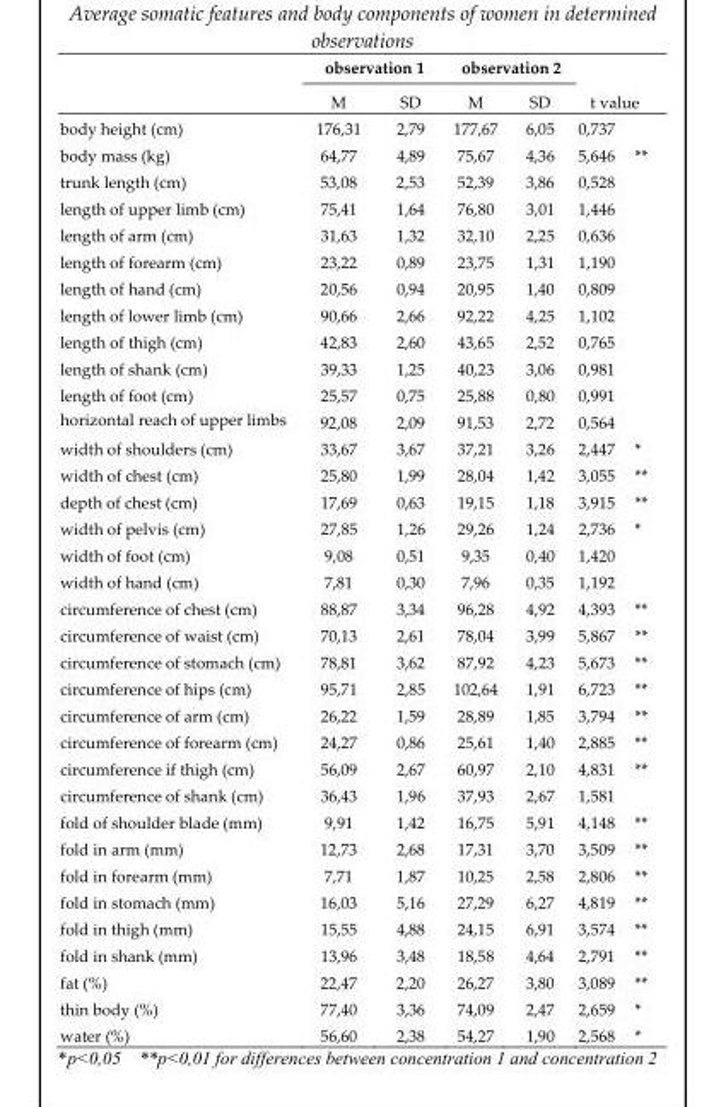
<table><thead><tr><td rowspan="2"></td><td colspan="2">observation 1</td><td colspan="2">observation 2</td><td rowspan="2">t value</td></tr><tr><td>M</td><td>SD</td><td>M</td><td>SD</td></tr></thead><tbody><tr><td>body height (cm)</td><td>176,31</td><td>2,79</td><td>177,67</td><td>6,05</td><td>0,737</td></tr><tr><td>body mass (kg)</td><td>64,77</td><td>4,89</td><td>75,67</td><td>4,36</td><td>5,646 **</td></tr><tr><td>trunk length (cm)</td><td>53,08</td><td>2,53</td><td>52,39</td><td>3,86</td><td>0,528</td></tr><tr><td>length of upper limb (cm)</td><td>75,41</td><td>1,64</td><td>76,80</td><td>3,01</td><td>1,446</td></tr><tr><td>length of arm (cm)</td><td>31,63</td><td>1,32</td><td>32,10</td><td>2,25</td><td>0,636</td></tr><tr><td>length of forearm (cm)</td><td>23,22</td><td>0,89</td><td>23,75</td><td>1,31</td><td>1,190</td></tr><tr><td>length of hand (cm)</td><td>20,56</td><td>0,94</td><td>20,95</td><td>1,40</td><td>0,809</td></tr><tr><td>length of lower limb (cm)</td><td>90,66</td><td>2,66</td><td>92,22</td><td>4,25</td><td>1,102</td></tr><tr><td>length of thigh (cm)</td><td>42,83</td><td>2,60</td><td>43,65</td><td>2,52</td><td>0,765</td></tr><tr><td>length of shank (cm)</td><td>39,33</td><td>1,25</td><td>40,23</td><td>3,06</td><td>0,981</td></tr><tr><td>length of foot (cm)</td><td>25,57</td><td>0,75</td><td>25,88</td><td>0,80</td><td>0,991</td></tr><tr><td>horizontal reach of upper limbs</td><td>92,08</td><td>2,09</td><td>91,53</td><td>2,72</td><td>0,564</td></tr><tr><td>width of shoulders (cm)</td><td>33,67</td><td>3,67</td><td>37,21</td><td>3,26</td><td>2,447 *</td></tr><tr><td>width of chest (cm)</td><td>25,80</td><td>1,99</td><td>28,04</td><td>1,42</td><td>3,055 **</td></tr><tr><td>depth of chest (cm)</td><td>17,69</td><td>0,63</td><td>19,15</td><td>1,18</td><td>3,915 **</td></tr><tr><td>width of pelvis (cm)</td><td>27,85</td><td>1,26</td><td>29,26</td><td>1,24</td><td>2,736 *</td></tr><tr><td>width of foot (cm)</td><td>9,08</td><td>0,51</td><td>9,35</td><td>0,40</td><td>1,420</td></tr><tr><td>width of hand (cm)</td><td>7,81</td><td>0,30</td><td>7,96</td><td>0,35</td><td>1,192</td></tr><tr><td>circumference of chest (cm)</td><td>88,87</td><td>3,34</td><td>96,28</td><td>4,92</td><td>4,393 **</td></tr><tr><td>circumference of waist (cm)</td><td>70,13</td><td>2,61</td><td>78,04</td><td>3,99</td><td>5,867 **</td></tr><tr><td>circumference of stomach (cm)</td><td>78,81</td><td>3,62</td><td>87,92</td><td>4,23</td><td>5,673 **</td></tr><tr><td>circumference of hips (cm)</td><td>95,71</td><td>2,85</td><td>102,64</td><td>1,91</td><td>6,723 **</td></tr><tr><td>circumference of arm (cm)</td><td>26,22</td><td>1,59</td><td>28,89</td><td>1,85</td><td>3,794 **</td></tr><tr><td>circumference of forearm (cm)</td><td>24,27</td><td>0,86</td><td>25,61</td><td>1,40</td><td>2,885 **</td></tr><tr><td>circumference if thigh (cm)</td><td>56,09</td><td>2,67</td><td>60,97</td><td>2,10</td><td>4,831 **</td></tr><tr><td>circumference of shank (cm)</td><td>36,43</td><td>1,96</td><td>37,93</td><td>2,67</td><td>1,581</td></tr><tr><td>fold of shoulder blade (mm)</td><td>9,91</td><td>1,42</td><td>16,75</td><td>5,91</td><td>4,148 **</td></tr><tr><td>fold in arm (mm)</td><td>12,73</td><td>2,68</td><td>17,31</td><td>3,70</td><td>3,509 **</td></tr><tr><td>fold in forearm (mm)</td><td>7,71</td><td>1,87</td><td>10,25</td><td>2,58</td><td>2,806 **</td></tr><tr><td>fold in stomach (mm)</td><td>16,03</td><td>5,16</td><td>27,29</td><td>6,27</td><td>4,819 **</td></tr><tr><td>fold in thigh (mm)</td><td>15,55</td><td>4,88</td><td>24,15</td><td>6,91</td><td>3,574 **</td></tr><tr><td>fold in shank (mm)</td><td>13,96</td><td>3,48</td><td>18,58</td><td>4,64</td><td>2,791 **</td></tr><tr><td>fat (%)</td><td>22,47</td><td>2,20</td><td>26,27</td><td>3,80</td><td>3,089 **</td></tr><tr><td>thin body (%)</td><td>77,40</td><td>3,36</td><td>74,09</td><td>2,47</td><td>2,659 *</td></tr><tr><td>water (%)</td><td>56,60</td><td>2,38</td><td>54,27</td><td>1,90</td><td>2,568 *</td></tr></tbody></table>